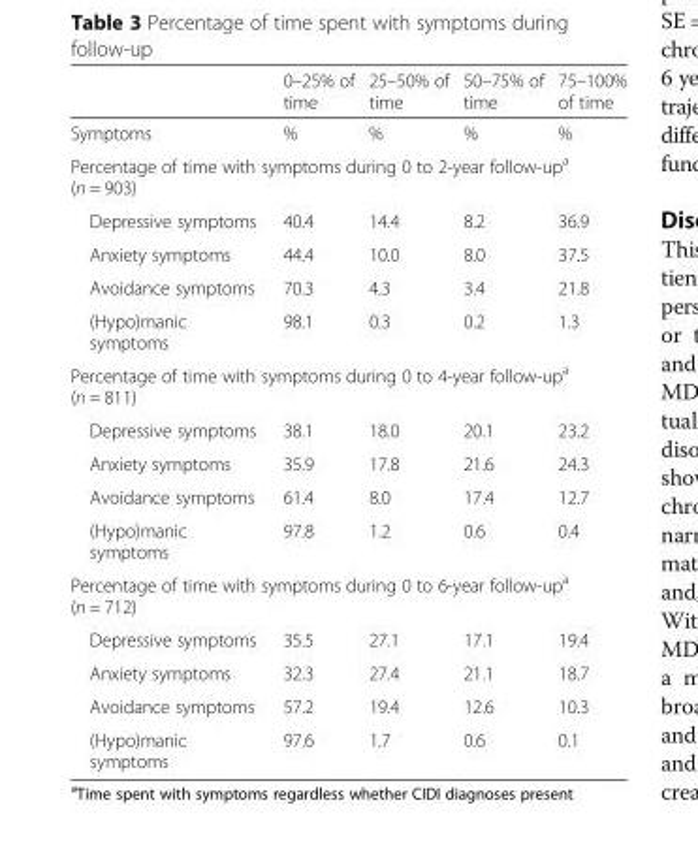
<table><thead><tr><td></td><td>0–25% of time</td><td>25–50% of time</td><td>50–75% of time</td><td>75–100% of time</td></tr></thead><tbody><tr><td>Symptoms</td><td>%</td><td>%</td><td>%</td><td>%</td></tr><tr><td colspan="5">Percentage of time with symptoms during 0 to 2-year follow-up<sup>a</sup> (n = 903)</td></tr><tr><td>Depressive symptoms</td><td>40.4</td><td>14.4</td><td>8.2</td><td>36.9</td></tr><tr><td>Anxiety symptoms</td><td>44.4</td><td>10.0</td><td>8.0</td><td>37.5</td></tr><tr><td>Avoidance symptoms</td><td>70.3</td><td>4.3</td><td>3.4</td><td>21.8</td></tr><tr><td>(Hypo)manic symptoms</td><td>98.1</td><td>0.3</td><td>0.2</td><td>1.3</td></tr><tr><td colspan="5">Percentage of time with symptoms during 0 to 4-year follow-up<sup>a</sup> (n = 811)</td></tr><tr><td>Depressive symptoms</td><td>38.1</td><td>18.0</td><td>20.1</td><td>23.2</td></tr><tr><td>Anxiety symptoms</td><td>35.9</td><td>17.8</td><td>21.6</td><td>24.3</td></tr><tr><td>Avoidance symptoms</td><td>61.4</td><td>8.0</td><td>17.4</td><td>12.7</td></tr><tr><td>(Hypo)manic symptoms</td><td>97.8</td><td>1.2</td><td>0.6</td><td>0.4</td></tr><tr><td colspan="5">Percentage of time with symptoms during 0 to 6-year follow-up<sup>a</sup> (n = 712)</td></tr><tr><td>Depressive symptoms</td><td>35.5</td><td>27.1</td><td>17.1</td><td>19.4</td></tr><tr><td>Anxiety symptoms</td><td>32.3</td><td>27.4</td><td>21.1</td><td>18.7</td></tr><tr><td>Avoidance symptoms</td><td>57.2</td><td>19.4</td><td>12.6</td><td>10.3</td></tr><tr><td>(Hypo)manic symptoms</td><td>97.6</td><td>1.7</td><td>0.6</td><td>0.1</td></tr></tbody></table>